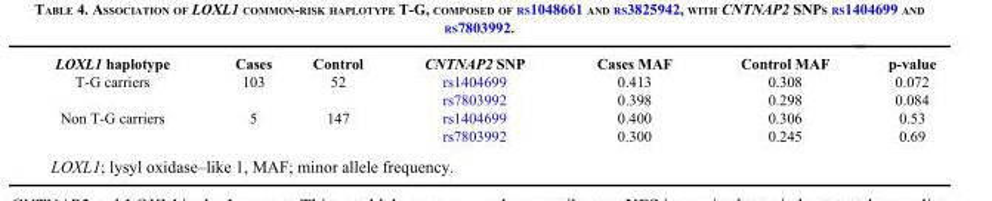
<table><thead><tr><td>LOXL1 haplotype</td><td>Cases</td><td>Control</td><td>CNTNAP2 SNP</td><td>Cases MAF</td><td>Control MAF</td><td>p-value</td></tr></thead><tbody><tr><td rowspan="2">T-G carriers</td><td>103</td><td>52</td><td>rs1404699</td><td>0.413</td><td>0.308</td><td>0.072</td></tr><tr><td></td><td></td><td>rs7803992</td><td>0.398</td><td>0.298</td><td>0.084</td></tr><tr><td rowspan="2">Non T-G carriers</td><td>5</td><td>147</td><td>rs1404699</td><td>0.400</td><td>0.306</td><td>0.53</td></tr><tr><td></td><td></td><td>rs7803992</td><td>0.300</td><td>0.245</td><td>0.69</td></tr></tbody></table>